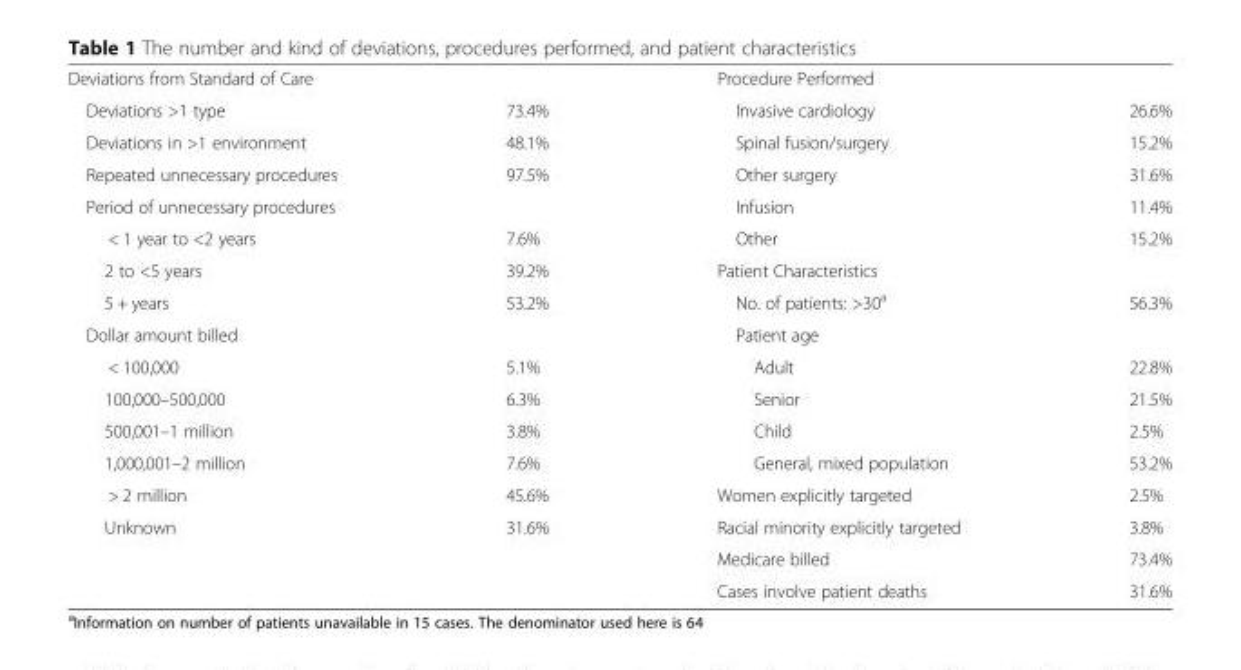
<table><tbody><tr><td colspan="2">Deviations from Standard of Care</td><td colspan="2">Procedure Performed</td></tr><tr><td>Deviations &gt;1 type</td><td>73.4%</td><td>Invasive cardiology</td><td>26.6%</td></tr><tr><td>Deviations in &gt;1 environment</td><td>48.1%</td><td>Spinal fusion/surgery</td><td>15.2%</td></tr><tr><td>Repeated unnecessary procedures</td><td>97.5%</td><td>Other surgery</td><td>31.6%</td></tr><tr><td>Period of unnecessary procedures</td><td></td><td>Infusion</td><td>11.4%</td></tr><tr><td>&lt; 1 year to &lt;2 years</td><td>7.6%</td><td>Other</td><td>15.2%</td></tr><tr><td>2 to &lt;5 years</td><td>39.2%</td><td colspan="2">Patient Characteristics</td></tr><tr><td>5 + years</td><td>53.2%</td><td>No. of patients: &gt;30<sup>a</sup></td><td>56.3%</td></tr><tr><td>Dollar amount billed</td><td></td><td>Patient age</td><td></td></tr><tr><td>&lt; 100,000</td><td>5.1%</td><td>Adult</td><td>22.8%</td></tr><tr><td>100,000–500,000</td><td>6.3%</td><td>Senior</td><td>21.5%</td></tr><tr><td>500,001–1 million</td><td>3.8%</td><td>Child</td><td>2.5%</td></tr><tr><td>1,000,001–2 million</td><td>7.6%</td><td>General, mixed population</td><td>53.2%</td></tr><tr><td>&gt; 2 million</td><td>45.6%</td><td>Women explicitly targeted</td><td>2.5%</td></tr><tr><td rowspan="3">Unknown</td><td>31.6%</td><td>Racial minority explicitly targeted</td><td>3.8%</td></tr><tr><td></td><td>Medicare billed</td><td>73.4%</td></tr><tr><td></td><td>Cases involve patient deaths</td><td>31.6%</td></tr></tbody></table>